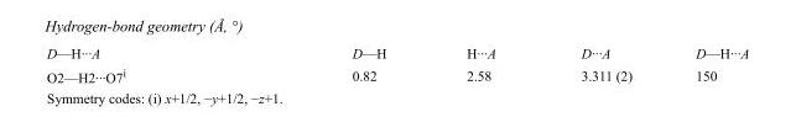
<table><tbody><tr><td>D—H···A</td><td>D—H</td><td>H···A</td><td>D···A</td><td>D—H···A</td></tr><tr><td>O2—H2···O7<sup>i</sup></td><td>0.82</td><td>2.58</td><td>3.311 (2)</td><td>150</td></tr></tbody></table>